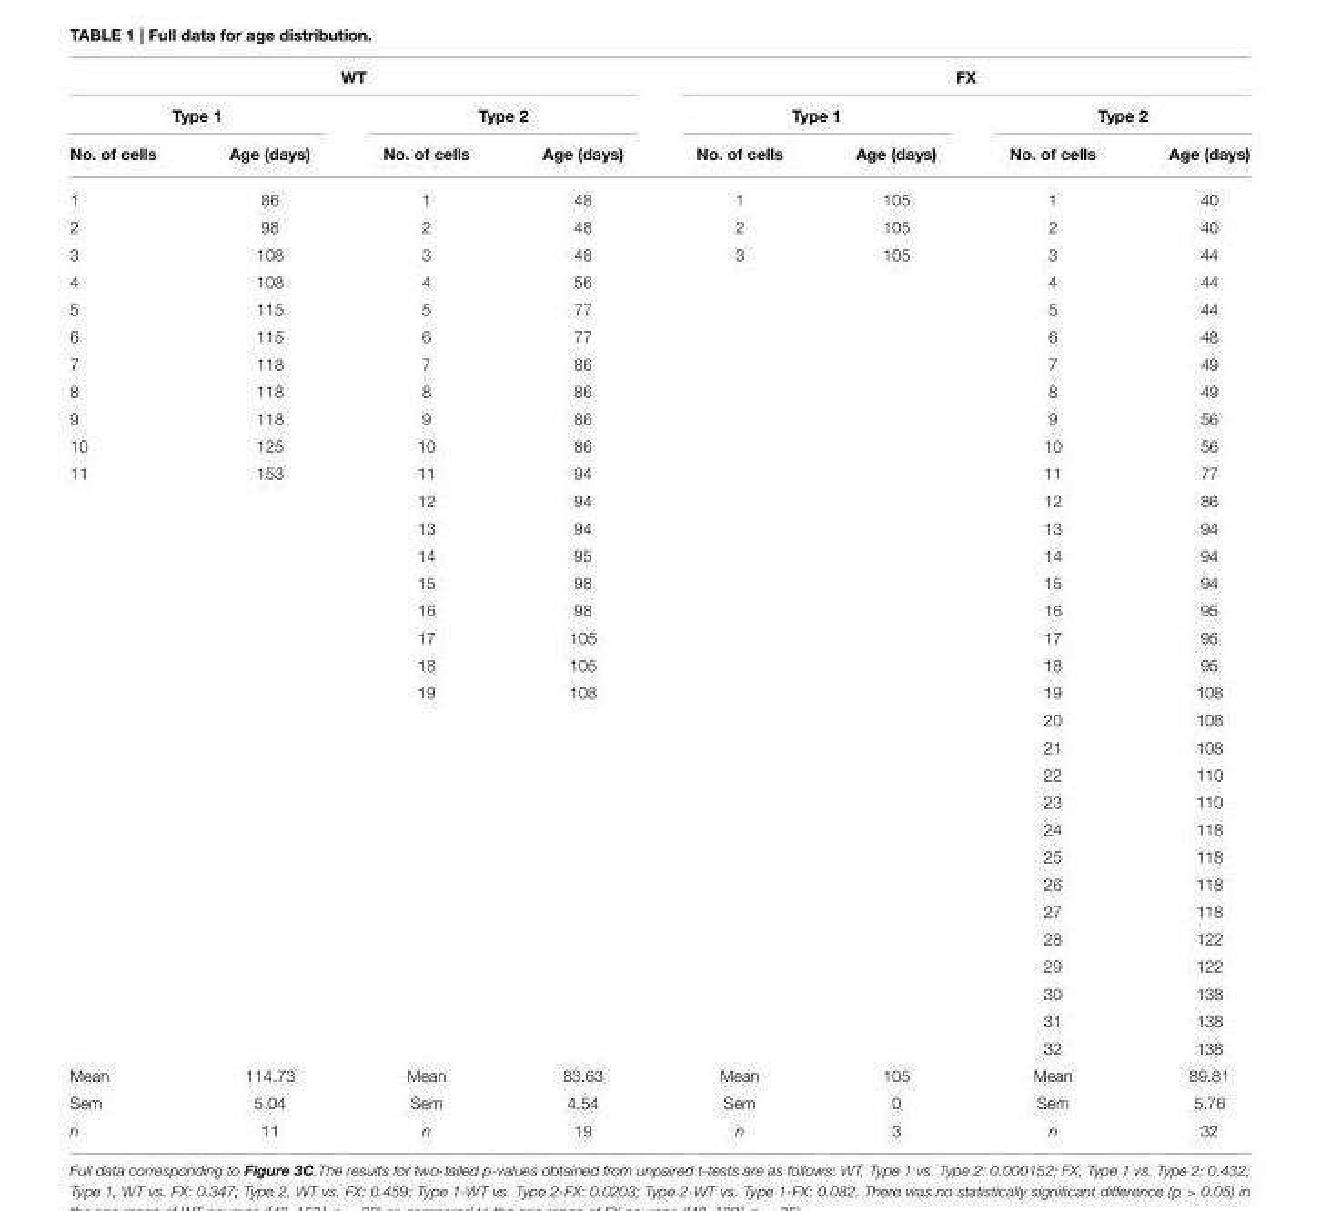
<table><thead><tr><td colspan="4">WT</td><td colspan="4">FX</td></tr><tr><td colspan="2">Type 1</td><td colspan="2">Type 2</td><td colspan="2">Type 1</td><td colspan="2">Type 2</td></tr><tr><td>No. of cells</td><td>Age (days)</td><td>No. of cells</td><td>Age (days)</td><td>No. of cells</td><td>Age (days)</td><td>No. of cells</td><td>Age (days)</td></tr></thead><tbody><tr><td>1</td><td>86</td><td>1</td><td>48</td><td>1</td><td>105</td><td>1</td><td>40</td></tr><tr><td>2</td><td>98</td><td>2</td><td>48</td><td>2</td><td>105</td><td>2</td><td>40</td></tr><tr><td>3</td><td>108</td><td>3</td><td>48</td><td>3</td><td>105</td><td>3</td><td>44</td></tr><tr><td>4</td><td>108</td><td>4</td><td>56</td><td></td><td></td><td>4</td><td>44</td></tr><tr><td>5</td><td>115</td><td>5</td><td>77</td><td></td><td></td><td>5</td><td>44</td></tr><tr><td>6</td><td>115</td><td>6</td><td>77</td><td></td><td></td><td>6</td><td>48</td></tr><tr><td>7</td><td>118</td><td>7</td><td>86</td><td></td><td></td><td>7</td><td>49</td></tr><tr><td>8</td><td>118</td><td>8</td><td>86</td><td></td><td></td><td>8</td><td>49</td></tr><tr><td>9</td><td>118</td><td>9</td><td>86</td><td></td><td></td><td>9</td><td>56</td></tr><tr><td>10</td><td>125</td><td>10</td><td>86</td><td></td><td></td><td>10</td><td>56</td></tr><tr><td rowspan="22">11</td><td>153</td><td>11</td><td>94</td><td></td><td></td><td>11</td><td>77</td></tr><tr><td></td><td>12</td><td>94</td><td></td><td></td><td>12</td><td>86</td></tr><tr><td></td><td>13</td><td>94</td><td></td><td></td><td>13</td><td>94</td></tr><tr><td></td><td>14</td><td>95</td><td></td><td></td><td>14</td><td>94</td></tr><tr><td></td><td>15</td><td>98</td><td></td><td></td><td>15</td><td>94</td></tr><tr><td></td><td>16</td><td>98</td><td></td><td></td><td>16</td><td>95</td></tr><tr><td></td><td>17</td><td>105</td><td></td><td></td><td>17</td><td>95</td></tr><tr><td></td><td>18</td><td>105</td><td></td><td></td><td>18</td><td>95</td></tr><tr><td></td><td>19</td><td>108</td><td></td><td></td><td>19</td><td>108</td></tr><tr><td></td><td></td><td></td><td></td><td></td><td>20</td><td>108</td></tr><tr><td></td><td></td><td></td><td></td><td></td><td>21</td><td>108</td></tr><tr><td></td><td></td><td></td><td></td><td></td><td>22</td><td>110</td></tr><tr><td></td><td></td><td></td><td></td><td></td><td>23</td><td>110</td></tr><tr><td></td><td></td><td></td><td></td><td></td><td>24</td><td>118</td></tr><tr><td></td><td></td><td></td><td></td><td></td><td>25</td><td>118</td></tr><tr><td></td><td></td><td></td><td></td><td></td><td>26</td><td>118</td></tr><tr><td></td><td></td><td></td><td></td><td></td><td>27</td><td>118</td></tr><tr><td></td><td></td><td></td><td></td><td></td><td>28</td><td>122</td></tr><tr><td></td><td></td><td></td><td></td><td></td><td>29</td><td>122</td></tr><tr><td></td><td></td><td></td><td></td><td></td><td>30</td><td>138</td></tr><tr><td></td><td></td><td></td><td></td><td></td><td>31</td><td>138</td></tr><tr><td></td><td></td><td></td><td></td><td></td><td>32</td><td>138</td></tr><tr><td>Mean</td><td>114.73</td><td>Mean</td><td>83.63</td><td>Mean</td><td>105</td><td>Mean</td><td>89.81</td></tr><tr><td>Sem</td><td>5.04</td><td>Sem</td><td>4.54</td><td>Sem</td><td>0</td><td>Sem</td><td>5.76</td></tr><tr><td>n</td><td>11</td><td>n</td><td>19</td><td>n</td><td>3</td><td>n</td><td>32</td></tr></tbody></table>